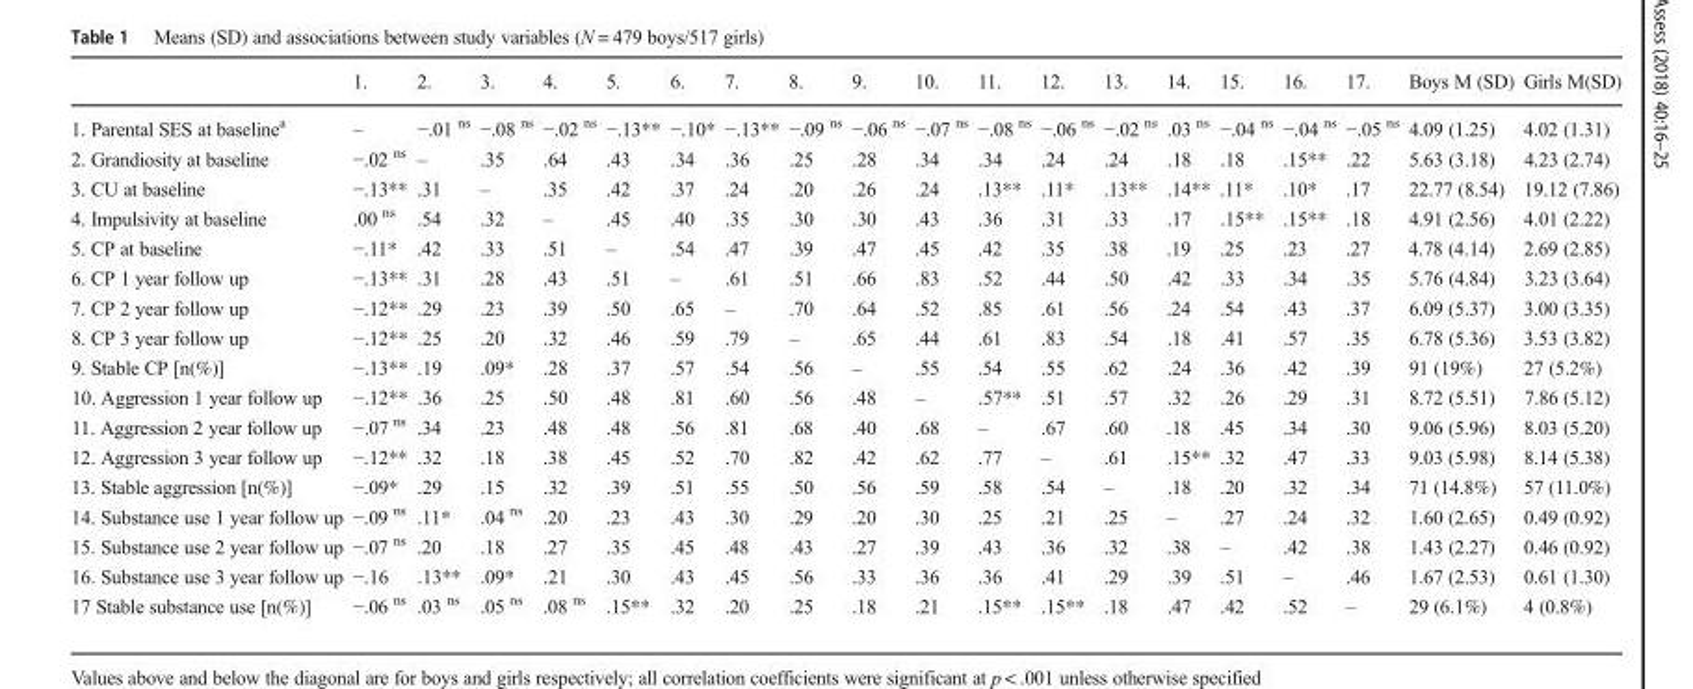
<table><thead><tr><td></td><td>1.</td><td>2.</td><td>3.</td><td>4.</td><td>5.</td><td>6.</td><td>7.</td><td>8.</td><td>9.</td><td>10.</td><td>11.</td><td>12.</td><td>13.</td><td>14.</td><td>15.</td><td>16.</td><td>17.</td><td>Boys M (SD)</td><td>Girls M(SD)</td></tr></thead><tbody><tr><td>1. Parental SES at baseline<sup>a</sup></td><td>–</td><td>−.01 <sup>ns</sup></td><td>−.08 <sup>ns</sup></td><td>−.02 <sup>ns</sup></td><td>−.13**</td><td>−.10*</td><td>−.13**</td><td>−.09 <sup>ns</sup></td><td>−.06 <sup>ns</sup></td><td>−.07 <sup>ns</sup></td><td>−.08 <sup>ns</sup></td><td>−.06 <sup>ns</sup></td><td>−.02 <sup>ns</sup></td><td>.03 <sup>ns</sup></td><td>−.04 <sup>ns</sup></td><td>−.04 <sup>ns</sup></td><td>−.05 <sup>ns</sup></td><td>4.09 (1.25)</td><td>4.02 (1.31)</td></tr><tr><td>2. Grandiosity at baseline</td><td>−.02 <sup>ns</sup></td><td>–</td><td>.35</td><td>.64</td><td>.43</td><td>.34</td><td>.36</td><td>.25</td><td>.28</td><td>.34</td><td>.34</td><td>.24</td><td>.24</td><td>.18</td><td>.18</td><td>.15**</td><td>.22</td><td>5.63 (3.18)</td><td>4.23 (2.74)</td></tr><tr><td>3. CU at baseline</td><td>−.13**</td><td>.31</td><td>–</td><td>.35</td><td>.42</td><td>.37</td><td>.24</td><td>.20</td><td>.26</td><td>.24</td><td>.13**</td><td>.11*</td><td>.13**</td><td>.14**</td><td>.11*</td><td>.10*</td><td>.17</td><td>22.77 (8.54)</td><td>19.12 (7.86)</td></tr><tr><td>4. Impulsivity at baseline</td><td>.00 <sup>ns</sup></td><td>.54</td><td>.32</td><td>–</td><td>.45</td><td>.40</td><td>.35</td><td>.30</td><td>.30</td><td>.43</td><td>.36</td><td>.31</td><td>.33</td><td>.17</td><td>.15**</td><td>.15**</td><td>.18</td><td>4.91 (2.56)</td><td>4.01 (2.22)</td></tr><tr><td>5. CP at baseline</td><td>−.11*</td><td>.42</td><td>.33</td><td>.51</td><td>–</td><td>.54</td><td>.47</td><td>.39</td><td>.47</td><td>.45</td><td>.42</td><td>.35</td><td>.38</td><td>.19</td><td>.25</td><td>.23</td><td>.27</td><td>4.78 (4.14)</td><td>2.69 (2.85)</td></tr><tr><td>6. CP 1 year follow up</td><td>−.13**</td><td>.31</td><td>.28</td><td>.43</td><td>.51</td><td>–</td><td>.61</td><td>.51</td><td>.66</td><td>.83</td><td>.52</td><td>.44</td><td>.50</td><td>.42</td><td>.33</td><td>.34</td><td>.35</td><td>5.76 (4.84)</td><td>3.23 (3.64)</td></tr><tr><td>7. CP 2 year follow up</td><td>−.12**</td><td>.29</td><td>.23</td><td>.39</td><td>.50</td><td>.65</td><td>–</td><td>.70</td><td>.64</td><td>.52</td><td>.85</td><td>.61</td><td>.56</td><td>.24</td><td>.54</td><td>.43</td><td>.37</td><td>6.09 (5.37)</td><td>3.00 (3.35)</td></tr><tr><td>8. CP 3 year follow up</td><td>−.12**</td><td>.25</td><td>.20</td><td>.32</td><td>.46</td><td>.59</td><td>.79</td><td>–</td><td>.65</td><td>.44</td><td>.61</td><td>.83</td><td>.54</td><td>.18</td><td>.41</td><td>.57</td><td>.35</td><td>6.78 (5.36)</td><td>3.53 (3.82)</td></tr><tr><td>9. Stable CP [n(%)]</td><td>−.13**</td><td>.19</td><td>.09*</td><td>.28</td><td>.37</td><td>.57</td><td>.54</td><td>.56</td><td>–</td><td>.55</td><td>.54</td><td>.55</td><td>.62</td><td>.24</td><td>.36</td><td>.42</td><td>.39</td><td>91 (19%)</td><td>27 (5.2%)</td></tr><tr><td>10. Aggression 1 year follow up</td><td>−.12**</td><td>.36</td><td>.25</td><td>.50</td><td>.48</td><td>.81</td><td>.60</td><td>.56</td><td>.48</td><td>–</td><td>.57**</td><td>.51</td><td>.57</td><td>.32</td><td>.26</td><td>.29</td><td>.31</td><td>8.72 (5.51)</td><td>7.86 (5.12)</td></tr><tr><td>11. Aggression 2 year follow up</td><td>−.07 <sup>ns</sup></td><td>.34</td><td>.23</td><td>.48</td><td>.48</td><td>.56</td><td>.81</td><td>.68</td><td>.40</td><td>.68</td><td>–</td><td>.67</td><td>.60</td><td>.18</td><td>.45</td><td>.34</td><td>.30</td><td>9.06 (5.96)</td><td>8.03 (5.20)</td></tr><tr><td>12. Aggression 3 year follow up</td><td>−.12**</td><td>.32</td><td>.18</td><td>.38</td><td>.45</td><td>.52</td><td>.70</td><td>.82</td><td>.42</td><td>.62</td><td>.77</td><td>–</td><td>.61</td><td>.15**</td><td>.32</td><td>.47</td><td>.33</td><td>9.03 (5.98)</td><td>8.14 (5.38)</td></tr><tr><td>13. Stable aggression [n(%)]</td><td>−.09*</td><td>.29</td><td>.15</td><td>.32</td><td>.39</td><td>.51</td><td>.55</td><td>.50</td><td>.56</td><td>.59</td><td>.58</td><td>.54</td><td>–</td><td>.18</td><td>.20</td><td>.32</td><td>.34</td><td>71 (14.8%)</td><td>57 (11.0%)</td></tr><tr><td>14. Substance use 1 year follow up</td><td>−.09 <sup>ns</sup></td><td>.11*</td><td>.04 <sup>ns</sup></td><td>.20</td><td>.23</td><td>.43</td><td>.30</td><td>.29</td><td>.20</td><td>.30</td><td>.25</td><td>.21</td><td>.25</td><td>–</td><td>.27</td><td>.24</td><td>.32</td><td>1.60 (2.65)</td><td>0.49 (0.92)</td></tr><tr><td>15. Substance use 2 year follow up</td><td>−.07 <sup>ns</sup></td><td>.20</td><td>.18</td><td>.27</td><td>.35</td><td>.45</td><td>.48</td><td>.43</td><td>.27</td><td>.39</td><td>.43</td><td>.36</td><td>.32</td><td>.38</td><td>–</td><td>.42</td><td>.38</td><td>1.43 (2.27)</td><td>0.46 (0.92)</td></tr><tr><td>16. Substance use 3 year follow up</td><td>−.16</td><td>.13**</td><td>.09*</td><td>.21</td><td>.30</td><td>.43</td><td>.45</td><td>.56</td><td>.33</td><td>.36</td><td>.36</td><td>.41</td><td>.29</td><td>.39</td><td>.51</td><td>–</td><td>.46</td><td>1.67 (2.53)</td><td>0.61 (1.30)</td></tr><tr><td>17 Stable substance use [n(%)]</td><td>−.06 <sup>ns</sup></td><td>.03 <sup>ns</sup></td><td>.05 <sup>ns</sup></td><td>.08 <sup>ns</sup></td><td>.15**</td><td>.32</td><td>.20</td><td>.25</td><td>.18</td><td>.21</td><td>.15**</td><td>.15**</td><td>.18</td><td>.47</td><td>.42</td><td>.52</td><td>–</td><td>29 (6.1%)</td><td>4 (0.8%)</td></tr></tbody></table>